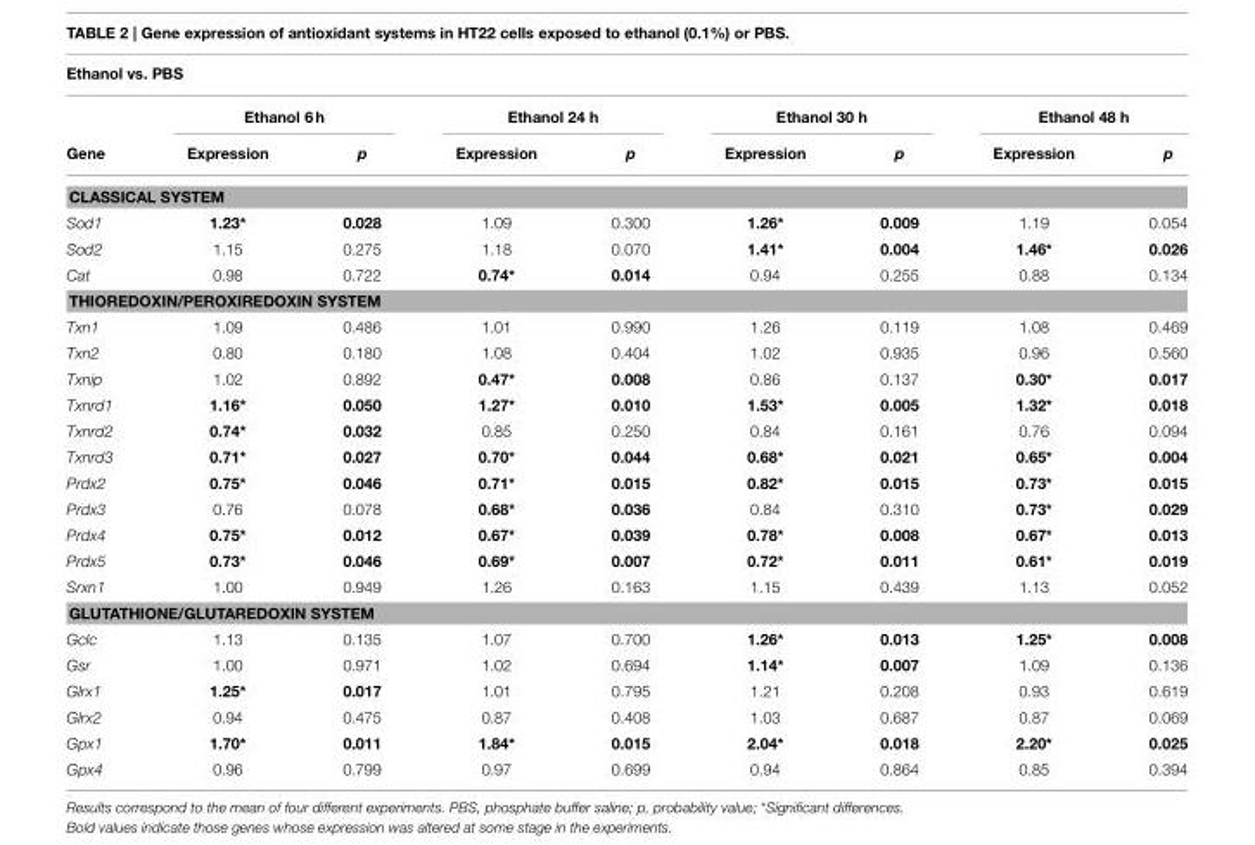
<table><thead><tr><td colspan="9">Ethanol vs. PBS</td></tr><tr><td rowspan="2">Gene</td><td colspan="2">Ethanol 6 h</td><td colspan="2">Ethanol 24 h</td><td colspan="2">Ethanol 30 h</td><td colspan="2">Ethanol 48 h</td></tr><tr><td>Expression</td><td>p</td><td>Expression</td><td>p</td><td>Expression</td><td>p</td><td>Expression</td><td>p</td></tr></thead><tbody><tr><td colspan="9">CLASSICAL SYSTEM</td></tr><tr><td>Sod1</td><td>1.23*</td><td>0.028</td><td>1.09</td><td>0.300</td><td>1.26*</td><td>0.009</td><td>1.19</td><td>0.054</td></tr><tr><td>Sod2</td><td>1.15</td><td>0.275</td><td>1.18</td><td>0.070</td><td>1.41*</td><td>0.004</td><td>1.46*</td><td>0.026</td></tr><tr><td>Cat</td><td>0.98</td><td>0.722</td><td>0.74*</td><td>0.014</td><td>0.94</td><td>0.255</td><td>0.88</td><td>0.134</td></tr><tr><td colspan="9">THIOREDOXIN/PEROXIREDOXIN SYSTEM</td></tr><tr><td>Txn1</td><td>1.09</td><td>0.486</td><td>1.01</td><td>0.990</td><td>1.26</td><td>0.119</td><td>1.08</td><td>0.469</td></tr><tr><td>Txn2</td><td>0.80</td><td>0.180</td><td>1.08</td><td>0.404</td><td>1.02</td><td>0.935</td><td>0.96</td><td>0.560</td></tr><tr><td>Txnip</td><td>1.02</td><td>0.892</td><td>0.47*</td><td>0.008</td><td>0.86</td><td>0.137</td><td>0.30*</td><td>0.017</td></tr><tr><td>Txnrd1</td><td>1.16*</td><td>0.050</td><td>1.27*</td><td>0.010</td><td>1.53*</td><td>0.005</td><td>1.32*</td><td>0.018</td></tr><tr><td>Txnrd2</td><td>0.74*</td><td>0.032</td><td>0.85</td><td>0.250</td><td>0.84</td><td>0.161</td><td>0.76</td><td>0.094</td></tr><tr><td>Txnrd3</td><td>0.71*</td><td>0.027</td><td>0.70*</td><td>0.044</td><td>0.68*</td><td>0.021</td><td>0.65*</td><td>0.004</td></tr><tr><td>Prdx2</td><td>0.75*</td><td>0.046</td><td>0.71*</td><td>0.015</td><td>0.82*</td><td>0.015</td><td>0.73*</td><td>0.015</td></tr><tr><td>Prdx3</td><td>0.76</td><td>0.078</td><td>0.68*</td><td>0.036</td><td>0.84</td><td>0.310</td><td>0.73*</td><td>0.029</td></tr><tr><td>Prdx4</td><td>0.75*</td><td>0.012</td><td>0.67*</td><td>0.039</td><td>0.78*</td><td>0.008</td><td>0.67*</td><td>0.013</td></tr><tr><td>Prdx5</td><td>0.73*</td><td>0.046</td><td>0.69*</td><td>0.007</td><td>0.72*</td><td>0.011</td><td>0.61*</td><td>0.019</td></tr><tr><td>Srxn1</td><td>1.00</td><td>0.949</td><td>1.26</td><td>0.163</td><td>1.15</td><td>0.439</td><td>1.13</td><td>0.052</td></tr><tr><td colspan="9">GLUTATHIONE/GLUTAREDOXIN SYSTEM</td></tr><tr><td>Gclc</td><td>1.13</td><td>0.135</td><td>1.07</td><td>0.700</td><td>1.26*</td><td>0.013</td><td>1.25*</td><td>0.008</td></tr><tr><td>Gsr</td><td>1.00</td><td>0.971</td><td>1.02</td><td>0.694</td><td>1.14*</td><td>0.007</td><td>1.09</td><td>0.136</td></tr><tr><td>Glrx1</td><td>1.25*</td><td>0.017</td><td>1.01</td><td>0.795</td><td>1.21</td><td>0.208</td><td>0.93</td><td>0.619</td></tr><tr><td>Glrx2</td><td>0.94</td><td>0.475</td><td>0.87</td><td>0.408</td><td>1.03</td><td>0.687</td><td>0.87</td><td>0.069</td></tr><tr><td>Gpx1</td><td>1.70*</td><td>0.011</td><td>1.84*</td><td>0.015</td><td>2.04*</td><td>0.018</td><td>2.20*</td><td>0.025</td></tr><tr><td>Gpx4</td><td>0.96</td><td>0.799</td><td>0.97</td><td>0.699</td><td>0.94</td><td>0.864</td><td>0.85</td><td>0.394</td></tr></tbody></table>